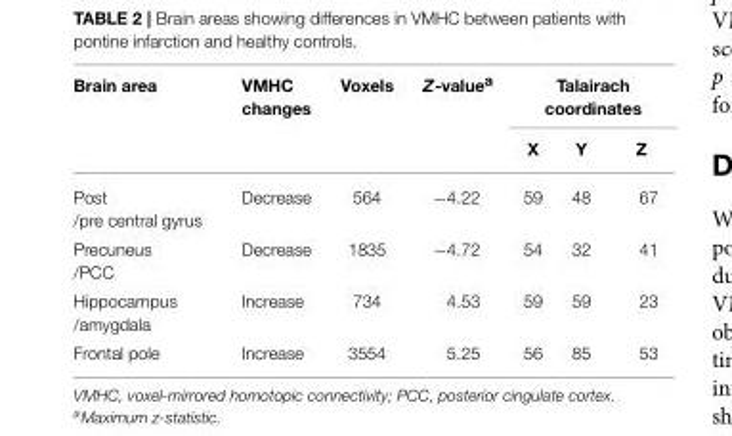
<table><thead><tr><td rowspan="2">Brain area</td><td rowspan="2">VMHC changes</td><td rowspan="2">Voxels</td><td rowspan="2">Z-value<sup>a</sup></td><td colspan="3">Talairach coordinates</td></tr><tr><td>X</td><td>Y</td><td>Z</td></tr></thead><tbody><tr><td>Post /pre central gyrus</td><td>Decrease</td><td>564</td><td>−4.22</td><td>59</td><td>48</td><td>67</td></tr><tr><td>Precuneus /PCC</td><td>Decrease</td><td>1835</td><td>−4.72</td><td>54</td><td>32</td><td>41</td></tr><tr><td>Hippocampus /amygdala</td><td>Increase</td><td>734</td><td>4.53</td><td>59</td><td>59</td><td>23</td></tr><tr><td>Frontal pole</td><td>Increase</td><td>3554</td><td>5.25</td><td>56</td><td>85</td><td>53</td></tr></tbody></table>